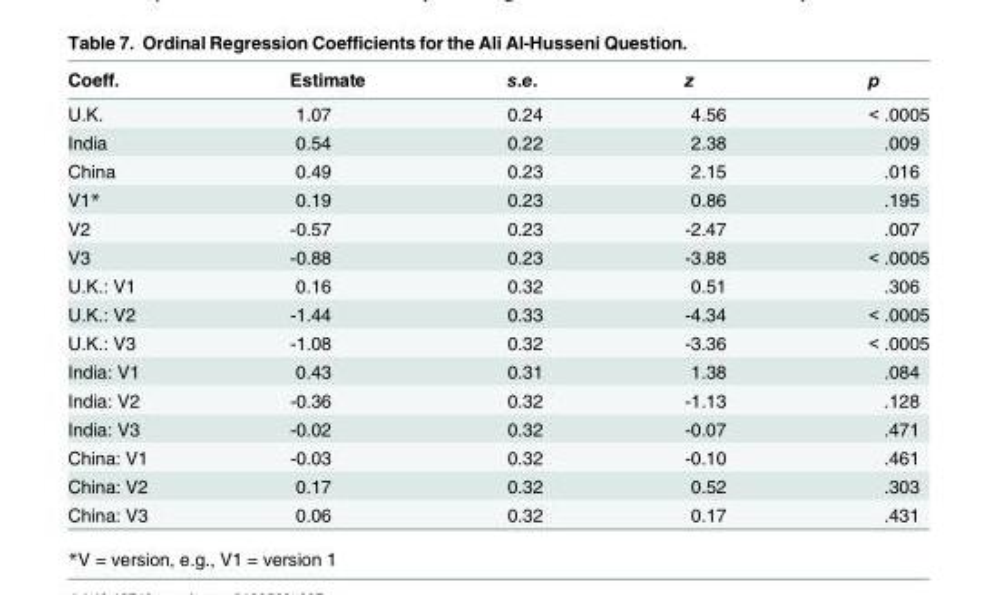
<table><thead><tr><td>Coeff.</td><td>Estimate</td><td>s.e.</td><td>z</td><td>p</td></tr></thead><tbody><tr><td>U.K.</td><td>1.07</td><td>0.24</td><td>4.56</td><td>&lt; .0005</td></tr><tr><td>India</td><td>0.54</td><td>0.22</td><td>2.38</td><td>.009</td></tr><tr><td>China</td><td>0.49</td><td>0.23</td><td>2.15</td><td>.016</td></tr><tr><td>V1*</td><td>0.19</td><td>0.23</td><td>0.86</td><td>.195</td></tr><tr><td>V2</td><td>-0.57</td><td>0.23</td><td>-2.47</td><td>.007</td></tr><tr><td>V3</td><td>-0.88</td><td>0.23</td><td>-3.88</td><td>&lt; .0005</td></tr><tr><td>U.K.: V1</td><td>0.16</td><td>0.32</td><td>0.51</td><td>.306</td></tr><tr><td>U.K.: V2</td><td>-1.44</td><td>0.33</td><td>-4.34</td><td>&lt; .0005</td></tr><tr><td>U.K.: V3</td><td>-1.08</td><td>0.32</td><td>-3.36</td><td>&lt; .0005</td></tr><tr><td>India: V1</td><td>0.43</td><td>0.31</td><td>1.38</td><td>.084</td></tr><tr><td>India: V2</td><td>-0.36</td><td>0.32</td><td>-1.13</td><td>.128</td></tr><tr><td>India: V3</td><td>-0.02</td><td>0.32</td><td>-0.07</td><td>.471</td></tr><tr><td>China: V1</td><td>-0.03</td><td>0.32</td><td>-0.10</td><td>.461</td></tr><tr><td>China: V2</td><td>0.17</td><td>0.32</td><td>0.52</td><td>.303</td></tr><tr><td>China: V3</td><td>0.06</td><td>0.32</td><td>0.17</td><td>.431</td></tr></tbody></table>